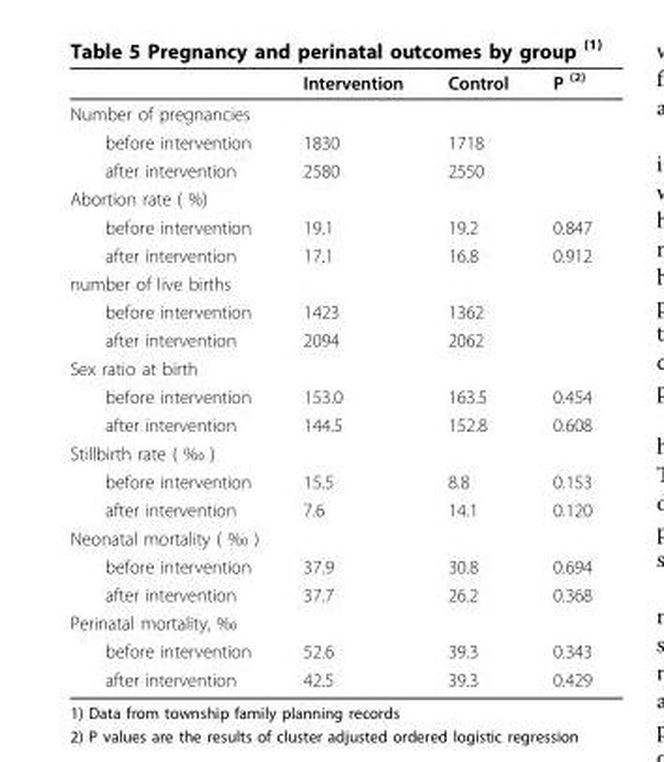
<table><thead><tr><td></td><td>Intervention</td><td>Control</td><td>P <sup>(2)</sup></td></tr></thead><tbody><tr><td colspan="4">Number of pregnancies</td></tr><tr><td>before intervention</td><td>1830</td><td>1718</td><td></td></tr><tr><td>after intervention</td><td>2580</td><td>2550</td><td></td></tr><tr><td colspan="4">Abortion rate ( %)</td></tr><tr><td>before intervention</td><td>19.1</td><td>19.2</td><td>0.847</td></tr><tr><td>after intervention</td><td>17.1</td><td>16.8</td><td>0.912</td></tr><tr><td colspan="4">number of live births</td></tr><tr><td>before intervention</td><td>1423</td><td>1362</td><td></td></tr><tr><td>after intervention</td><td>2094</td><td>2062</td><td></td></tr><tr><td colspan="4">Sex ratio at birth</td></tr><tr><td>before intervention</td><td>153.0</td><td>163.5</td><td>0.454</td></tr><tr><td>after intervention</td><td>144.5</td><td>152.8</td><td>0.608</td></tr><tr><td colspan="4">Stillbirth rate ( ‰ )</td></tr><tr><td>before intervention</td><td>15.5</td><td>8.8</td><td>0.153</td></tr><tr><td>after intervention</td><td>7.6</td><td>14.1</td><td>0.120</td></tr><tr><td colspan="4">Neonatal mortality ( ‰ )</td></tr><tr><td>before intervention</td><td>37.9</td><td>30.8</td><td>0.694</td></tr><tr><td>after intervention</td><td>37.7</td><td>26.2</td><td>0.368</td></tr><tr><td colspan="4">Perinatal mortality, ‰</td></tr><tr><td>before intervention</td><td>52.6</td><td>39.3</td><td>0.343</td></tr><tr><td>after intervention</td><td>42.5</td><td>39.3</td><td>0.429</td></tr></tbody></table>